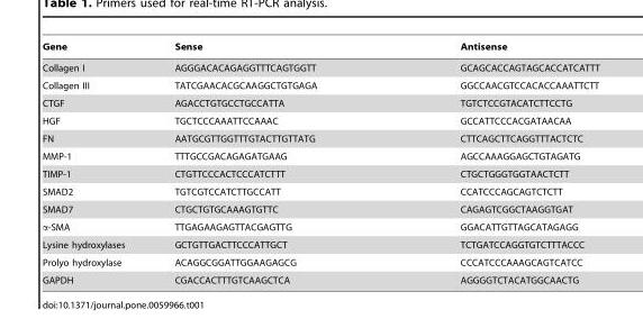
<table><thead><tr><td>Gene</td><td>Sense</td><td>Antisense</td></tr></thead><tbody><tr><td>Collagen I</td><td>AGGGACACAGAGGTTTCAGTGGTT</td><td>GCAGCACCAGTAGCACCATCATTT</td></tr><tr><td>Collagen III</td><td>TATCGAACACGCAAGGCTGTGAGA</td><td>GGCCAACGTCCACACCAAATTCTT</td></tr><tr><td>CTGF</td><td>AGACCTGTGCCTGCCATTA</td><td>TGTCTCCGTACATCTTCCTG</td></tr><tr><td>HGF</td><td>TGCTCCCAAATTCCAAAC</td><td>GCCATTCCCACGATAACAA</td></tr><tr><td>FN</td><td>AATGCGTTGGTTTGTACTTGTTATG</td><td>CTTCAGCTTCAGGTTTACTCTC</td></tr><tr><td>MMP-1</td><td>TTTGCCGACAGAGATGAAG</td><td>AGCCAAAGGAGCTGTAGATG</td></tr><tr><td>TIMP-1</td><td>CTGTTCCCACTCCCATCTTT</td><td>CTGCTGGGTGGTAACTCTT</td></tr><tr><td>SMAD2</td><td>TGTCGTCCATCTTGCCATT</td><td>CCATCCCAGCAGTCTCTT</td></tr><tr><td>SMAD7</td><td>CTGCTGTGCAAAGTGTTC</td><td>CAGAGTCGGCTAAGGTGAT</td></tr><tr><td>α-SMA</td><td>TTGAGAAGAGTTACGAGTTG</td><td>GGACATTGTTAGCATAGAGG</td></tr><tr><td>Lysine hydroxylases</td><td>GCTGTTGACTTCCCATTGCT</td><td>TCTGATCCAGGTGTCTTTACCC</td></tr><tr><td>Prolyo hydroxylase</td><td>ACAGGCGGATTGGAAGAGCG</td><td>CCCATCCCAAAGCAGTCATCC</td></tr><tr><td>GAPDH</td><td>CGACCACTTTGTCAAGCTCA</td><td>AGGGGTCTACATGGCAACTG</td></tr></tbody></table>